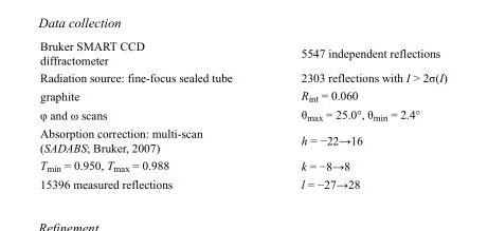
<table><tbody><tr><td>Bruker SMART CCD diffractometer</td><td>5547 independent reflections</td></tr><tr><td>Radiation source: fine-focus sealed tube</td><td>2303 reflections with I &gt; 2σ(I)</td></tr><tr><td>graphite</td><td>R<sub>int</sub> = 0.060</td></tr><tr><td>φ and ω scans</td><td>θ<sub>max</sub> = 25.0°, θ<sub>min</sub> = 2.4°</td></tr><tr><td>Absorption correction: multi-scan (SADABS; Bruker, 2007)</td><td>h = −22→16</td></tr><tr><td>T<sub>min</sub> = 0.950, T<sub>max</sub> = 0.988</td><td>k = −8→8</td></tr><tr><td>15396 measured reflections</td><td>l = −27→28</td></tr></tbody></table>